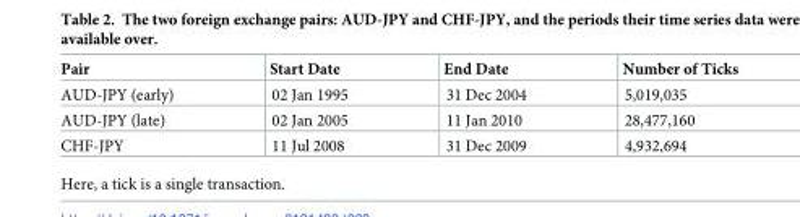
<table><thead><tr><td>Pair</td><td>Start Date</td><td>End Date</td><td>Number of Ticks</td></tr></thead><tbody><tr><td>AUD-JPY (early)</td><td>02 Jan 1995</td><td>31 Dec 2004</td><td>5,019,035</td></tr><tr><td>AUD-JPY (late)</td><td>02 Jan 2005</td><td>11 Jan 2010</td><td>28,477,160</td></tr><tr><td>CHF-JPY</td><td>11 Jul 2008</td><td>31 Dec 2009</td><td>4,932,694</td></tr></tbody></table>